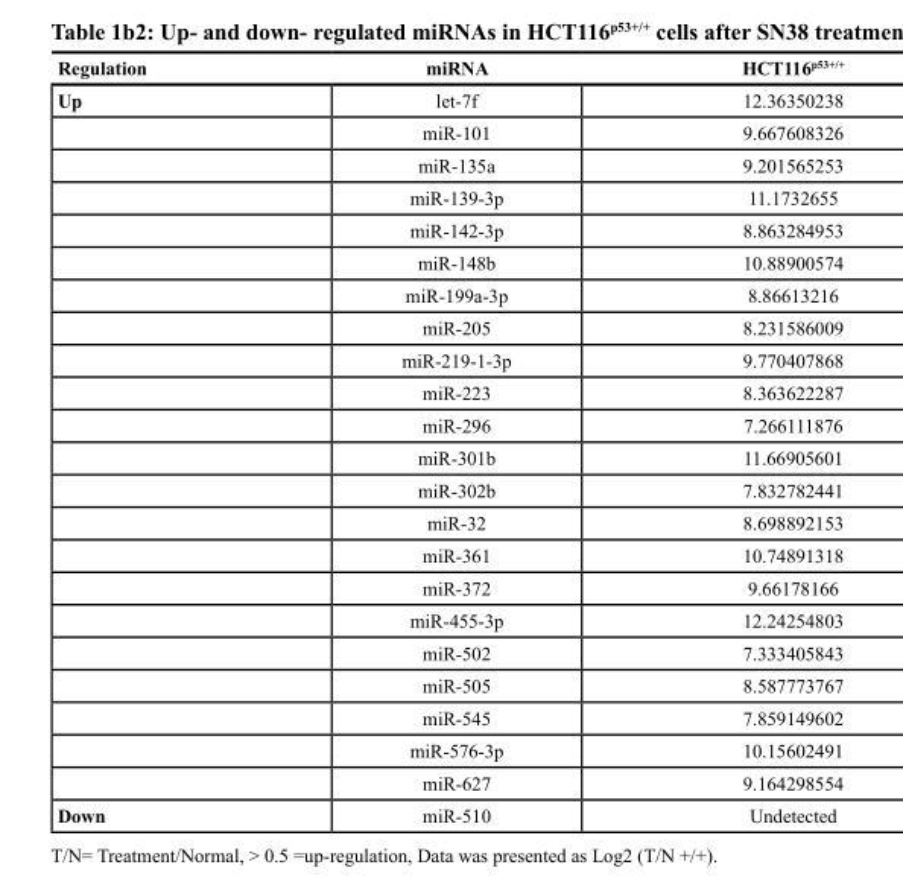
<table><thead><tr><td>Regulation</td><td>miRNA</td><td>HCT116<sup>p53+/+</sup></td></tr></thead><tbody><tr><td rowspan="22">Up</td><td>let-7f</td><td>12.36350238</td></tr><tr><td>miR-101</td><td>9.667608326</td></tr><tr><td>miR-135a</td><td>9.201565253</td></tr><tr><td>miR-139-3p</td><td>11.1732655</td></tr><tr><td>miR-142-3p</td><td>8.863284953</td></tr><tr><td>miR-148b</td><td>10.88900574</td></tr><tr><td>miR-199a-3p</td><td>8.86613216</td></tr><tr><td>miR-205</td><td>8.231586009</td></tr><tr><td>miR-219-1-3p</td><td>9.770407868</td></tr><tr><td>miR-223</td><td>8.363622287</td></tr><tr><td>miR-296</td><td>7.266111876</td></tr><tr><td>miR-301b</td><td>11.66905601</td></tr><tr><td>miR-302b</td><td>7.832782441</td></tr><tr><td>miR-32</td><td>8.698892153</td></tr><tr><td>miR-361</td><td>10.74891318</td></tr><tr><td>miR-372</td><td>9.66178166</td></tr><tr><td>miR-455-3p</td><td>12.24254803</td></tr><tr><td>miR-502</td><td>7.333405843</td></tr><tr><td>miR-505</td><td>8.587773767</td></tr><tr><td>miR-545</td><td>7.859149602</td></tr><tr><td>miR-576-3p</td><td>10.15602491</td></tr><tr><td>miR-627</td><td>9.164298554</td></tr><tr><td>Down</td><td>miR-510</td><td>Undetected</td></tr></tbody></table>